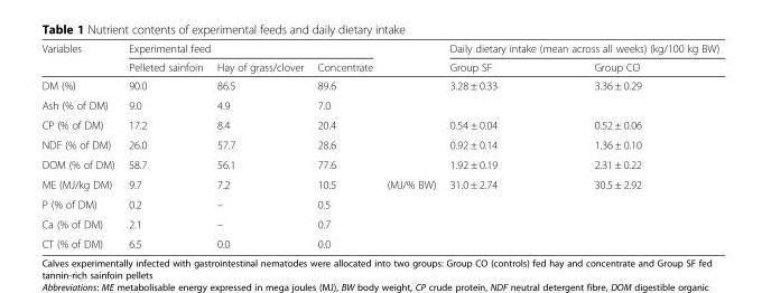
<table><thead><tr><td rowspan="2">Variables</td><td colspan="3">Experimental feed</td><td rowspan="2"></td><td colspan="2">Daily dietary intake (mean across all weeks) (kg/100 kg BW)</td></tr><tr><td>Pelleted sainfoin</td><td>Hay of grass/clover</td><td>Concentrate</td><td>Group SF</td><td>Group CO</td></tr></thead><tbody><tr><td>DM (%)</td><td>90.0</td><td>86.5</td><td>89.6</td><td></td><td>3.28 ± 0.33</td><td>3.36 ± 0.29</td></tr><tr><td>Ash (% of DM)</td><td>9.0</td><td>4.9</td><td>7.0</td><td></td><td></td><td></td></tr><tr><td>CP (% of DM)</td><td>17.2</td><td>8.4</td><td>20.4</td><td></td><td>0.54 ± 0.04</td><td>0.52 ± 0.06</td></tr><tr><td>NDF (% of DM)</td><td>26.0</td><td>57.7</td><td>28.6</td><td></td><td>0.92 ± 0.14</td><td>1.36 ± 0.10</td></tr><tr><td>DOM (% of DM)</td><td>58.7</td><td>56.1</td><td>77.6</td><td></td><td>1.92 ± 0.19</td><td>2.31 ± 0.22</td></tr><tr><td>ME (MJ/kg DM)</td><td>9.7</td><td>7.2</td><td>10.5</td><td>(MJ/% BW)</td><td>31.0 ± 2.74</td><td>30.5 ± 2.92</td></tr><tr><td>P (% of DM)</td><td>0.2</td><td>–</td><td>0.5</td><td></td><td></td><td></td></tr><tr><td>Ca (% of DM)</td><td>2.1</td><td>–</td><td>0.7</td><td></td><td></td><td></td></tr><tr><td>CT (% of DM)</td><td>6.5</td><td>0.0</td><td>0.0</td><td></td><td></td><td></td></tr></tbody></table>